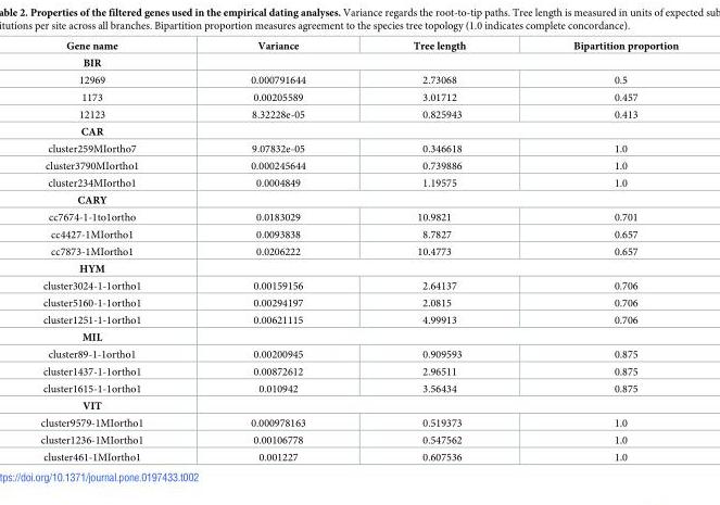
<table><thead><tr><td>Gene name</td><td>Variance</td><td>Tree length</td><td>Bipartition proportion</td></tr></thead><tbody><tr><td colspan="4">BIR</td></tr><tr><td>12969</td><td>0.000791644</td><td>2.73068</td><td>0.5</td></tr><tr><td>1173</td><td>0.00205589</td><td>3.01712</td><td>0.457</td></tr><tr><td>12123</td><td>8.32228e-05</td><td>0.825943</td><td>0.413</td></tr><tr><td colspan="4">CAR</td></tr><tr><td>cluster259MIortho7</td><td>9.07832e-05</td><td>0.346618</td><td>1.0</td></tr><tr><td>cluster3790MIortho1</td><td>0.000245644</td><td>0.739886</td><td>1.0</td></tr><tr><td>cluster234MIortho1</td><td>0.0004849</td><td>1.19575</td><td>1.0</td></tr><tr><td colspan="4">CARY</td></tr><tr><td>cc7674-1-1to1ortho</td><td>0.0183029</td><td>10.9821</td><td>0.701</td></tr><tr><td>cc4427-1MIortho1</td><td>0.0093838</td><td>8.7827</td><td>0.657</td></tr><tr><td>cc7873-1MIortho1</td><td>0.0206222</td><td>10.4773</td><td>0.657</td></tr><tr><td colspan="4">HYM</td></tr><tr><td>cluster3024-1-1ortho1</td><td>0.00159156</td><td>2.64137</td><td>0.706</td></tr><tr><td>cluster5160-1-1ortho1</td><td>0.00294197</td><td>2.0815</td><td>0.706</td></tr><tr><td>cluster1251-1-1ortho1</td><td>0.00621115</td><td>4.99913</td><td>0.706</td></tr><tr><td colspan="4">MIL</td></tr><tr><td>cluster89-1-1ortho1</td><td>0.00200945</td><td>0.909593</td><td>0.875</td></tr><tr><td>cluster1437-1-1ortho1</td><td>0.00872612</td><td>2.96511</td><td>0.875</td></tr><tr><td>cluster1615-1-1ortho1</td><td>0.010942</td><td>3.56434</td><td>0.875</td></tr><tr><td colspan="4">VIT</td></tr><tr><td>cluster9579-1MIortho1</td><td>0.000978163</td><td>0.519373</td><td>1.0</td></tr><tr><td>cluster1236-1MIortho1</td><td>0.00106778</td><td>0.547562</td><td>1.0</td></tr><tr><td>cluster461-1MIortho1</td><td>0.001227</td><td>0.607536</td><td>1.0</td></tr></tbody></table>